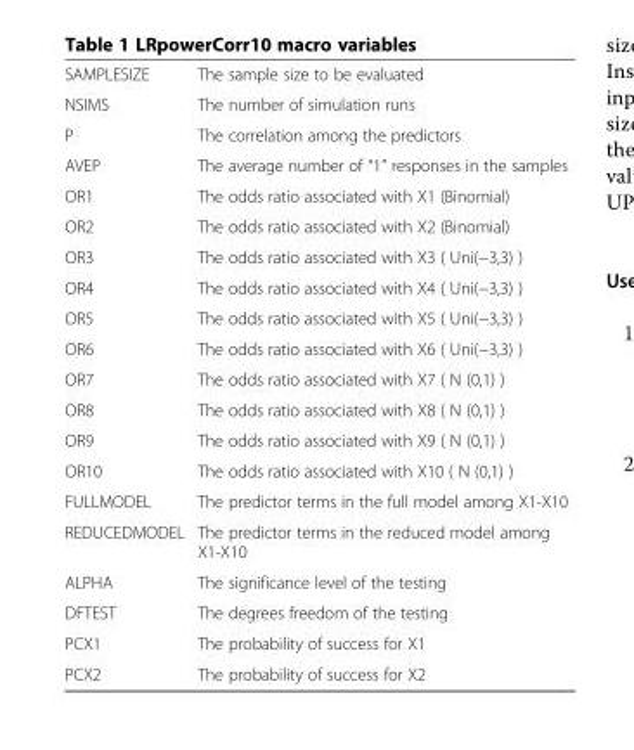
<table><tbody><tr><td>SAMPLESIZE</td><td>The sample size to be evaluated</td></tr><tr><td>NSIMS</td><td>The number of simulation runs</td></tr><tr><td>P</td><td>The correlation among the predictors</td></tr><tr><td>AVEP</td><td>The average number of “1” responses in the samples</td></tr><tr><td>OR1</td><td>The odds ratio associated with X1 (Binomial)</td></tr><tr><td>OR2</td><td>The odds ratio associated with X2 (Binomial)</td></tr><tr><td>OR3</td><td>The odds ratio associated with X3 ( Uni(−3,3) )</td></tr><tr><td>OR4</td><td>The odds ratio associated with X4 ( Uni(−3,3) )</td></tr><tr><td>OR5</td><td>The odds ratio associated with X5 ( Uni(−3,3) )</td></tr><tr><td>OR6</td><td>The odds ratio associated with X6 ( Uni(−3,3) )</td></tr><tr><td>OR7</td><td>The odds ratio associated with X7 ( N (0,1) )</td></tr><tr><td>OR8</td><td>The odds ratio associated with X8 ( N (0,1) )</td></tr><tr><td>OR9</td><td>The odds ratio associated with X9 ( N (0,1) )</td></tr><tr><td>OR10</td><td>The odds ratio associated with X10 ( N (0,1) )</td></tr><tr><td>FULLMODEL</td><td>The predictor terms in the full model among X1-X10</td></tr><tr><td>REDUCEDMODEL</td><td>The predictor terms in the reduced model among X1-X10</td></tr><tr><td>ALPHA</td><td>The significance level of the testing</td></tr><tr><td>DFTEST</td><td>The degrees freedom of the testing</td></tr><tr><td>PCX1</td><td>The probability of success for X1</td></tr><tr><td>PCX2</td><td>The probability of success for X2</td></tr></tbody></table>